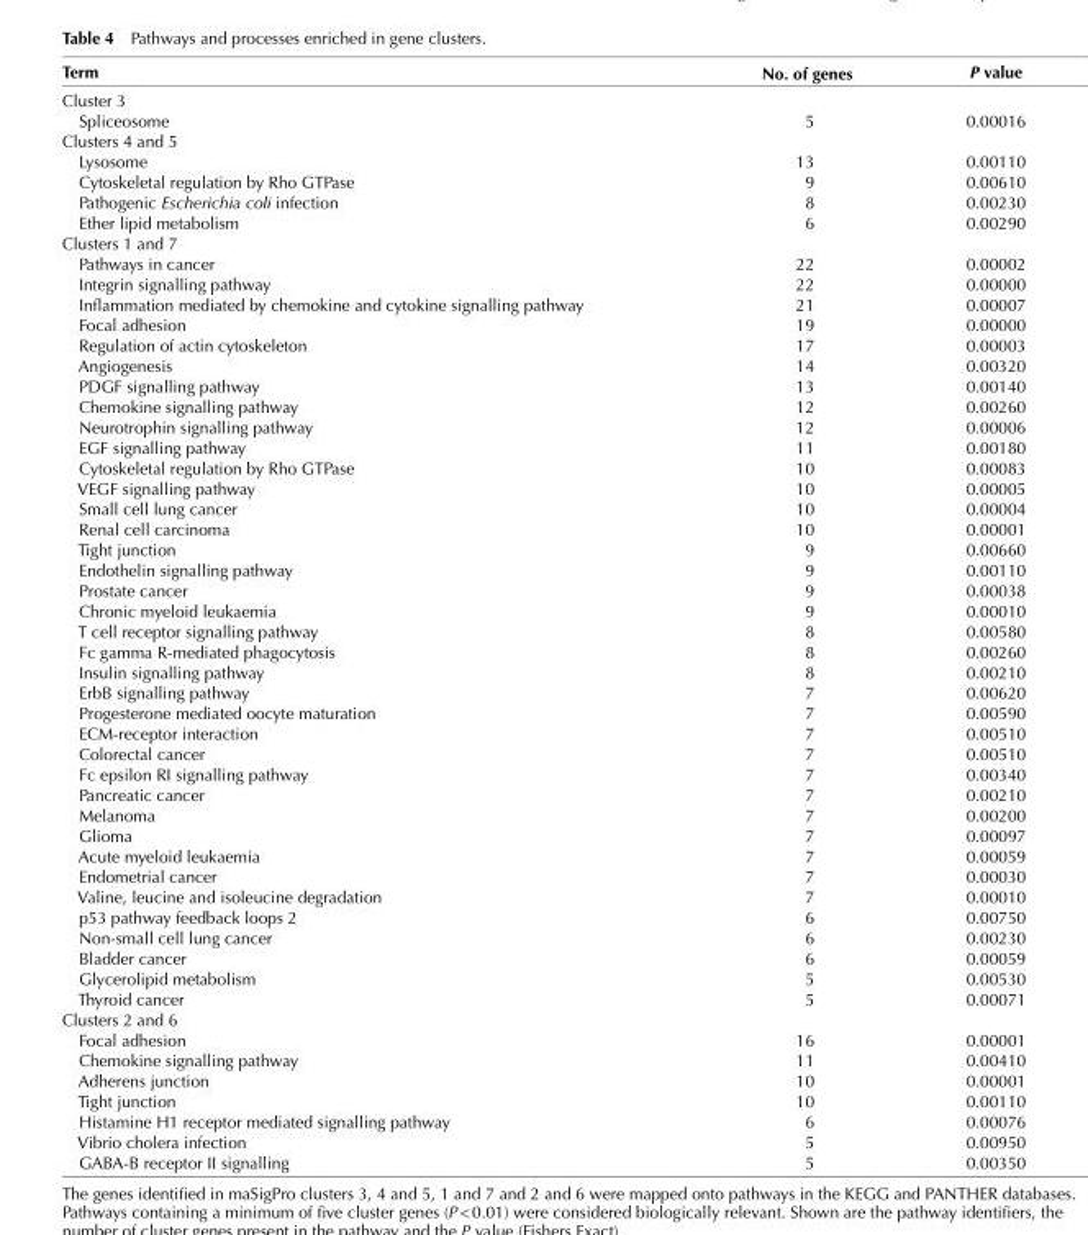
<table><thead><tr><td>Term</td><td>No. of genes</td><td>P value</td></tr></thead><tbody><tr><td colspan="3">Cluster 3</td></tr><tr><td>Spliceosome</td><td>5</td><td>0.00016</td></tr><tr><td colspan="3">Clusters 4 and 5</td></tr><tr><td>Lysosome</td><td>13</td><td>0.00110</td></tr><tr><td>Cytoskeletal regulation by Rho GTPase</td><td>9</td><td>0.00610</td></tr><tr><td>Pathogenic Escherichia coli infection</td><td>8</td><td>0.00230</td></tr><tr><td>Ether lipid metabolism</td><td>6</td><td>0.00290</td></tr><tr><td colspan="3">Clusters 1 and 7</td></tr><tr><td>Pathways in cancer</td><td>22</td><td>0.00002</td></tr><tr><td>Integrin signalling pathway</td><td>22</td><td>0.00000</td></tr><tr><td>Inflammation mediated by chemokine and cytokine signalling pathway</td><td>21</td><td>0.00007</td></tr><tr><td>Focal adhesion</td><td>19</td><td>0.00000</td></tr><tr><td>Regulation of actin cytoskeleton</td><td>17</td><td>0.00003</td></tr><tr><td>Angiogenesis</td><td>14</td><td>0.00320</td></tr><tr><td>PDGF signalling pathway</td><td>13</td><td>0.00140</td></tr><tr><td>Chemokine signalling pathway</td><td>12</td><td>0.00260</td></tr><tr><td>Neurotrophin signalling pathway</td><td>12</td><td>0.00006</td></tr><tr><td>EGF signalling pathway</td><td>11</td><td>0.00180</td></tr><tr><td>Cytoskeletal regulation by Rho GTPase</td><td>10</td><td>0.00083</td></tr><tr><td>VEGF signalling pathway</td><td>10</td><td>0.00005</td></tr><tr><td>Small cell lung cancer</td><td>10</td><td>0.00004</td></tr><tr><td>Renal cell carcinoma</td><td>10</td><td>0.00001</td></tr><tr><td>Tight junction</td><td>9</td><td>0.00660</td></tr><tr><td>Endothelin signalling pathway</td><td>9</td><td>0.00110</td></tr><tr><td>Prostate cancer</td><td>9</td><td>0.00038</td></tr><tr><td>Chronic myeloid leukaemia</td><td>9</td><td>0.00010</td></tr><tr><td>T cell receptor signalling pathway</td><td>8</td><td>0.00580</td></tr><tr><td>Fc gamma R-mediated phagocytosis</td><td>8</td><td>0.00260</td></tr><tr><td>Insulin signalling pathway</td><td>8</td><td>0.00210</td></tr><tr><td>ErbB signalling pathway</td><td>7</td><td>0.00620</td></tr><tr><td>Progesterone mediated oocyte maturation</td><td>7</td><td>0.00590</td></tr><tr><td>ECM-receptor interaction</td><td>7</td><td>0.00510</td></tr><tr><td>Colorectal cancer</td><td>7</td><td>0.00510</td></tr><tr><td>Fc epsilon RI signalling pathway</td><td>7</td><td>0.00340</td></tr><tr><td>Pancreatic cancer</td><td>7</td><td>0.00210</td></tr><tr><td>Melanoma</td><td>7</td><td>0.00200</td></tr><tr><td>Glioma</td><td>7</td><td>0.00097</td></tr><tr><td>Acute myeloid leukaemia</td><td>7</td><td>0.00059</td></tr><tr><td>Endometrial cancer</td><td>7</td><td>0.00030</td></tr><tr><td>Valine, leucine and isoleucine degradation</td><td>7</td><td>0.00010</td></tr><tr><td>p53 pathway feedback loops 2</td><td>6</td><td>0.00750</td></tr><tr><td>Non-small cell lung cancer</td><td>6</td><td>0.00230</td></tr><tr><td>Bladder cancer</td><td>6</td><td>0.00059</td></tr><tr><td>Glycerolipid metabolism</td><td>5</td><td>0.00530</td></tr><tr><td>Thyroid cancer</td><td>5</td><td>0.00071</td></tr><tr><td colspan="3">Clusters 2 and 6</td></tr><tr><td>Focal adhesion</td><td>16</td><td>0.00001</td></tr><tr><td>Chemokine signalling pathway</td><td>11</td><td>0.00410</td></tr><tr><td>Adherens junction</td><td>10</td><td>0.00001</td></tr><tr><td>Tight junction</td><td>10</td><td>0.00110</td></tr><tr><td>Histamine H1 receptor mediated signalling pathway</td><td>6</td><td>0.00076</td></tr><tr><td>Vibrio cholera infection</td><td>5</td><td>0.00950</td></tr><tr><td>GABA-B receptor II signalling</td><td>5</td><td>0.00350</td></tr></tbody></table>